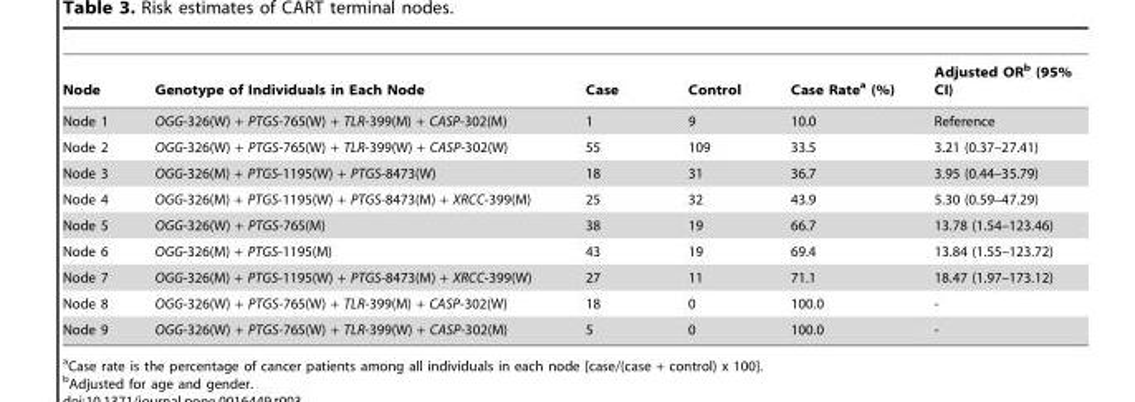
<table><thead><tr><td>Node</td><td>Genotype of Individuals in Each Node</td><td>Case</td><td>Control</td><td>Case Rate<sup>a</sup> (%)</td><td>Adjusted OR<sup>b</sup> (95% CI)</td></tr></thead><tbody><tr><td>Node 1</td><td>OGG-326(W) + PTGS-765(W) + TLR-399(M) + CASP-302(M)</td><td>1</td><td>9</td><td>10.0</td><td>Reference</td></tr><tr><td>Node 2</td><td>OGG-326(W) + PTGS-765(W) + TLR-399(W) + CASP-302(W)</td><td>55</td><td>109</td><td>33.5</td><td>3.21 (0.37–27.41)</td></tr><tr><td>Node 3</td><td>OGG-326(M) + PTGS-1195(W) + PTGS-8473(W)</td><td>18</td><td>31</td><td>36.7</td><td>3.95 (0.44–35.79)</td></tr><tr><td>Node 4</td><td>OGG-326(M) + PTGS-1195(W) + PTGS-8473(M) + XRCC-399(M)</td><td>25</td><td>32</td><td>43.9</td><td>5.30 (0.59–47.29)</td></tr><tr><td>Node 5</td><td>OGG-326(W) + PTGS-765(M)</td><td>38</td><td>19</td><td>66.7</td><td>13.78 (1.54–123.46)</td></tr><tr><td>Node 6</td><td>OGG-326(M) + PTGS-1195(M)</td><td>43</td><td>19</td><td>69.4</td><td>13.84 (1.55–123.72)</td></tr><tr><td>Node 7</td><td>OGG-326(M) + PTGS-1195(W) + PTGS-8473(M) + XRCC-399(W)</td><td>27</td><td>11</td><td>71.1</td><td>18.47 (1.97–173.12)</td></tr><tr><td>Node 8</td><td>OGG-326(W) + PTGS-765(W) + TLR-399(M) + CASP-302(W)</td><td>18</td><td>0</td><td>100.0</td><td>-</td></tr><tr><td>Node 9</td><td>OGG-326(W) + PTGS-765(W) + TLR-399(W) + CASP-302(M)</td><td>5</td><td>0</td><td>100.0</td><td>-</td></tr></tbody></table>